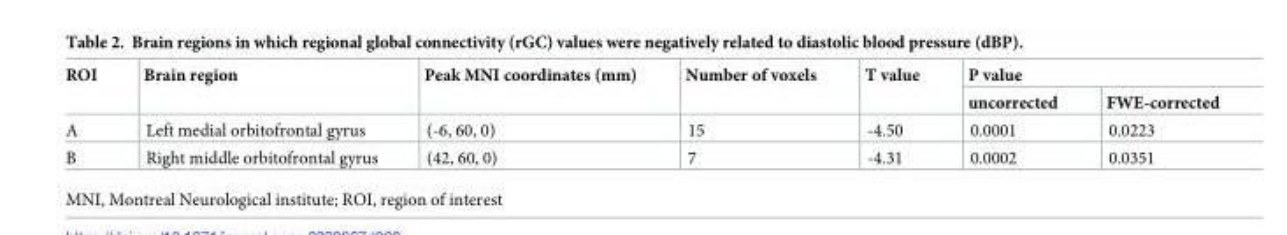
<table><thead><tr><td rowspan="2">ROI</td><td rowspan="2">Brain region</td><td rowspan="2">Peak MNI coordinates (mm)</td><td rowspan="2">Number of voxels</td><td rowspan="2">T value</td><td colspan="2">P value</td></tr><tr><td>uncorrected</td><td>FWE-corrected</td></tr></thead><tbody><tr><td>A</td><td>Left medial orbitofrontal gyrus</td><td>(-6, 60, 0)</td><td>15</td><td>-4.50</td><td>0.0001</td><td>0.0223</td></tr><tr><td>B</td><td>Right middle orbitofrontal gyrus</td><td>(42, 60, 0)</td><td>7</td><td>-4.31</td><td>0.0002</td><td>0.0351</td></tr></tbody></table>